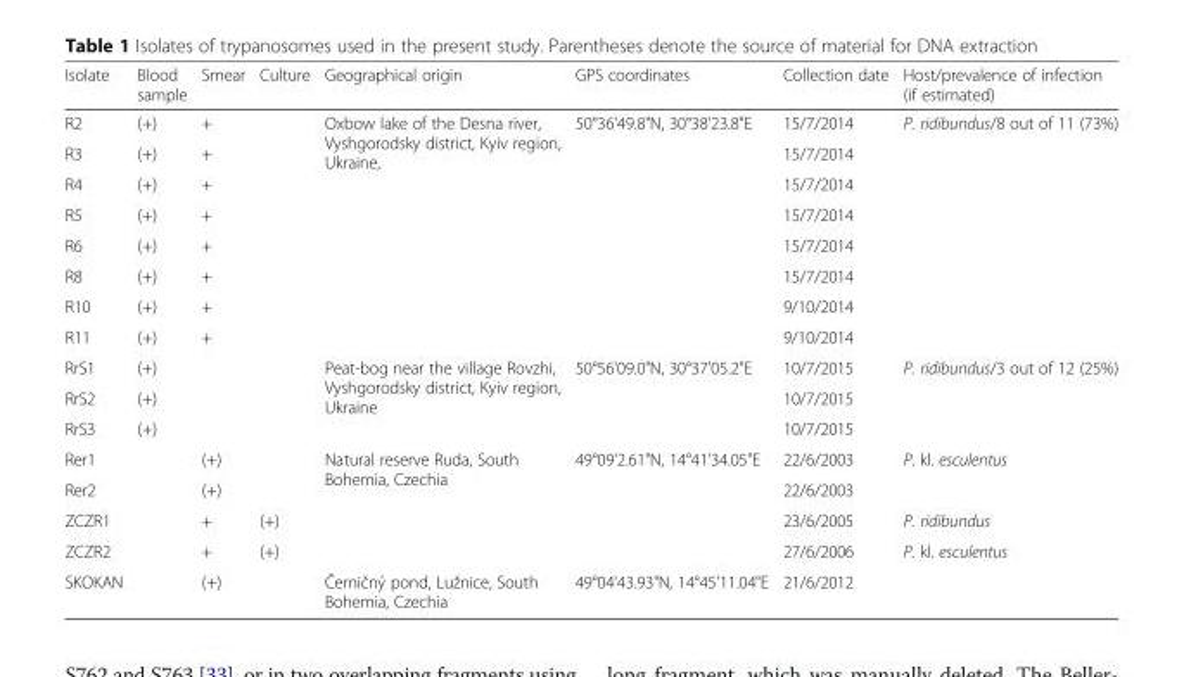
<table><thead><tr><td>Isolate</td><td>Blood sample</td><td>Smear</td><td>Culture</td><td>Geographical origin</td><td>GPS coordinates</td><td>Collection date</td><td>Host/prevalence of infection (if estimated)</td></tr></thead><tbody><tr><td>R2</td><td>(+)</td><td>+</td><td></td><td rowspan="8">Oxbow lake of the Desna river, Vyshgorodsky district, Kyiv region, Ukraine,</td><td rowspan="8">50°36&#x27;49.8&quot;N, 30°38&#x27;23.8&quot;E</td><td>15/7/2014</td><td rowspan="8">P. ridibundus/8 out of 11 (73%)</td></tr><tr><td>R3</td><td>(+)</td><td>+</td><td></td><td>15/7/2014</td></tr><tr><td>R4</td><td>(+)</td><td>+</td><td></td><td>15/7/2014</td></tr><tr><td>R5</td><td>(+)</td><td>+</td><td></td><td>15/7/2014</td></tr><tr><td>R6</td><td>(+)</td><td>+</td><td></td><td>15/7/2014</td></tr><tr><td>R8</td><td>(+)</td><td>+</td><td></td><td>15/7/2014</td></tr><tr><td>R10</td><td>(+)</td><td>+</td><td></td><td>9/10/2014</td></tr><tr><td>R11</td><td>(+)</td><td>+</td><td></td><td>9/10/2014</td></tr><tr><td>RrS1</td><td>(+)</td><td></td><td></td><td rowspan="3">Peat-bog near the village Rovzhi, Vyshgorodsky district, Kyiv region, Ukraine</td><td rowspan="3">50°56&#x27;09.0&quot;N, 30°37&#x27;05.2&quot;E</td><td>10/7/2015</td><td rowspan="3">P. ridibundus/3 out of 12 (25%)</td></tr><tr><td>RrS2</td><td>(+)</td><td></td><td></td><td>10/7/2015</td></tr><tr><td>RrS3</td><td>(+)</td><td></td><td></td><td>10/7/2015</td></tr><tr><td>Rer1</td><td></td><td>(+)</td><td></td><td rowspan="4">Natural reserve Ruda, South Bohemia, Czechia</td><td rowspan="4">49°09&#x27;2.61&quot;N, 14°41&#x27;34.05&quot;E</td><td>22/6/2003</td><td rowspan="2">P. kl. esculentus</td></tr><tr><td>Rer2</td><td></td><td>(+)</td><td></td><td>22/6/2003</td></tr><tr><td>ZCZR1</td><td></td><td>+</td><td>(+)</td><td>23/6/2005</td><td>P. ridibundus</td></tr><tr><td>ZCZR2</td><td></td><td>+</td><td>(+)</td><td>27/6/2006</td><td>P. kl. esculentus</td></tr><tr><td>SKOKAN</td><td></td><td>(+)</td><td></td><td>Černičný pond, Lužnice, South Bohemia, Czechia</td><td>49°04&#x27;43.93&quot;N, 14°45&#x27;11.04&quot;E</td><td>21/6/2012</td><td></td></tr></tbody></table>